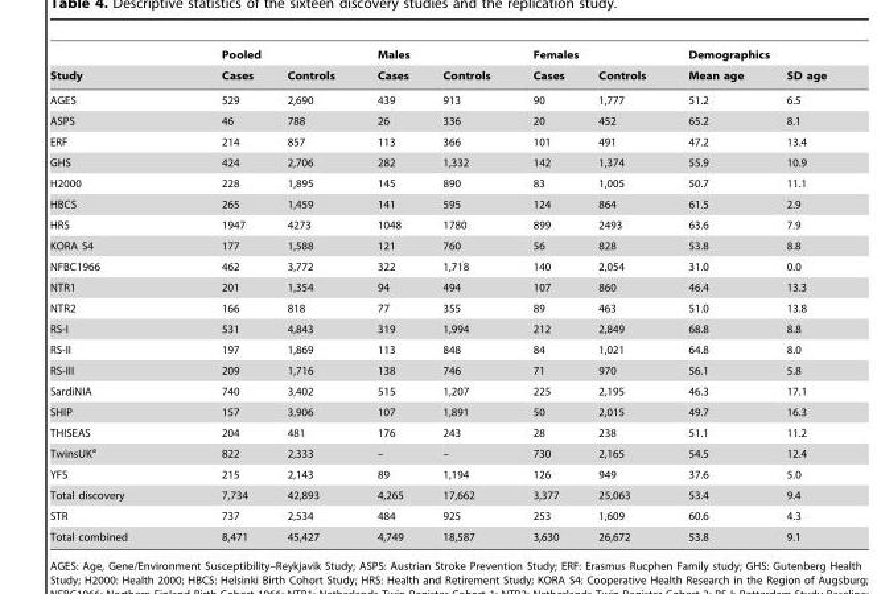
<table><thead><tr><td rowspan="2">Study</td><td colspan="2">Pooled</td><td colspan="2">Males</td><td colspan="2">Females</td><td colspan="2">Demographics</td></tr><tr><td>Cases</td><td>Controls</td><td>Cases</td><td>Controls</td><td>Cases</td><td>Controls</td><td>Mean age</td><td>SD age</td></tr></thead><tbody><tr><td>AGES</td><td>529</td><td>2,690</td><td>439</td><td>913</td><td>90</td><td>1,777</td><td>51.2</td><td>6.5</td></tr><tr><td>ASPS</td><td>46</td><td>788</td><td>26</td><td>336</td><td>20</td><td>452</td><td>65.2</td><td>8.1</td></tr><tr><td>ERF</td><td>214</td><td>857</td><td>113</td><td>366</td><td>101</td><td>491</td><td>47.2</td><td>13.4</td></tr><tr><td>GHS</td><td>424</td><td>2,706</td><td>282</td><td>1,332</td><td>142</td><td>1,374</td><td>55.9</td><td>10.9</td></tr><tr><td>H2000</td><td>228</td><td>1,895</td><td>145</td><td>890</td><td>83</td><td>1,005</td><td>50.7</td><td>11.1</td></tr><tr><td>HBCS</td><td>265</td><td>1,459</td><td>141</td><td>595</td><td>124</td><td>864</td><td>61.5</td><td>2.9</td></tr><tr><td>HRS</td><td>1947</td><td>4273</td><td>1048</td><td>1780</td><td>899</td><td>2493</td><td>63.6</td><td>7.9</td></tr><tr><td>KORA S4</td><td>177</td><td>1,588</td><td>121</td><td>760</td><td>56</td><td>828</td><td>53.8</td><td>8.8</td></tr><tr><td>NFBC1966</td><td>462</td><td>3,772</td><td>322</td><td>1,718</td><td>140</td><td>2,054</td><td>31.0</td><td>0.0</td></tr><tr><td>NTR1</td><td>201</td><td>1,354</td><td>94</td><td>494</td><td>107</td><td>860</td><td>46.4</td><td>13.3</td></tr><tr><td>NTR2</td><td>166</td><td>818</td><td>77</td><td>355</td><td>89</td><td>463</td><td>51.0</td><td>13.8</td></tr><tr><td>RS-I</td><td>531</td><td>4,843</td><td>319</td><td>1,994</td><td>212</td><td>2,849</td><td>68.8</td><td>8.8</td></tr><tr><td>RS-II</td><td>197</td><td>1,869</td><td>113</td><td>848</td><td>84</td><td>1,021</td><td>64.8</td><td>8.0</td></tr><tr><td>RS-III</td><td>209</td><td>1,716</td><td>138</td><td>746</td><td>71</td><td>970</td><td>56.1</td><td>5.8</td></tr><tr><td>SardiNIA</td><td>740</td><td>3,402</td><td>515</td><td>1,207</td><td>225</td><td>2,195</td><td>46.3</td><td>17.1</td></tr><tr><td>SHIP</td><td>157</td><td>3,906</td><td>107</td><td>1,891</td><td>50</td><td>2,015</td><td>49.7</td><td>16.3</td></tr><tr><td>THISEAS</td><td>204</td><td>481</td><td>176</td><td>243</td><td>28</td><td>238</td><td>51.1</td><td>11.2</td></tr><tr><td>TwinsUK<sup>a</sup></td><td>822</td><td>2,333</td><td>–</td><td>–</td><td>730</td><td>2,165</td><td>54.5</td><td>12.4</td></tr><tr><td>YFS</td><td>215</td><td>2,143</td><td>89</td><td>1,194</td><td>126</td><td>949</td><td>37.6</td><td>5.0</td></tr><tr><td>Total discovery</td><td>7,734</td><td>42,893</td><td>4,265</td><td>17,662</td><td>3,377</td><td>25,063</td><td>53.4</td><td>9.4</td></tr><tr><td>STR</td><td>737</td><td>2,534</td><td>484</td><td>925</td><td>253</td><td>1,609</td><td>60.6</td><td>4.3</td></tr><tr><td>Total combined</td><td>8,471</td><td>45,427</td><td>4,749</td><td>18,587</td><td>3,630</td><td>26,672</td><td>53.8</td><td>9.1</td></tr></tbody></table>